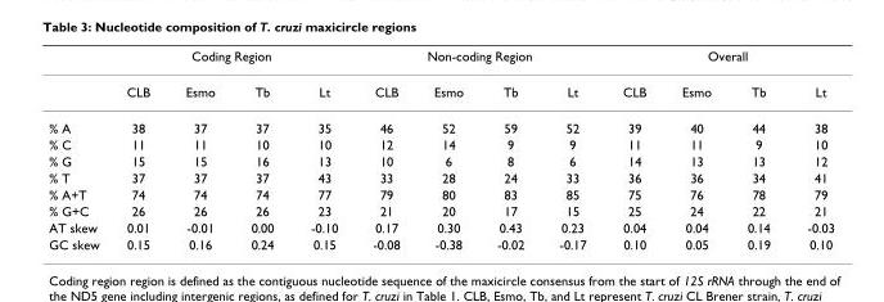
<table><thead><tr><td rowspan="2"></td><td colspan="4">Coding Region</td><td colspan="4">Non-coding Region</td><td colspan="4">Overall</td></tr><tr><td>CLB</td><td>Esmo</td><td>Tb</td><td>Lt</td><td>CLB</td><td>Esmo</td><td>Tb</td><td>Lt</td><td>CLB</td><td>Esmo</td><td>Tb</td><td>Lt</td></tr></thead><tbody><tr><td>% A</td><td>38</td><td>37</td><td>37</td><td>35</td><td>46</td><td>52</td><td>59</td><td>52</td><td>39</td><td>40</td><td>44</td><td>38</td></tr><tr><td>% C</td><td>11</td><td>11</td><td>10</td><td>10</td><td>12</td><td>14</td><td>9</td><td>9</td><td>11</td><td>11</td><td>9</td><td>10</td></tr><tr><td>% G</td><td>15</td><td>15</td><td>16</td><td>13</td><td>10</td><td>6</td><td>8</td><td>6</td><td>14</td><td>13</td><td>13</td><td>12</td></tr><tr><td>% T</td><td>37</td><td>37</td><td>37</td><td>43</td><td>33</td><td>28</td><td>24</td><td>33</td><td>36</td><td>36</td><td>34</td><td>41</td></tr><tr><td>% A+T</td><td>74</td><td>74</td><td>74</td><td>77</td><td>79</td><td>80</td><td>83</td><td>85</td><td>75</td><td>76</td><td>78</td><td>79</td></tr><tr><td>% G+C</td><td>26</td><td>26</td><td>26</td><td>23</td><td>21</td><td>20</td><td>17</td><td>15</td><td>25</td><td>24</td><td>22</td><td>21</td></tr><tr><td>AT skew</td><td>0.01</td><td>-0.01</td><td>0.00</td><td>-0.10</td><td>0.17</td><td>0.30</td><td>0.43</td><td>0.23</td><td>0.04</td><td>0.04</td><td>0.14</td><td>-0.03</td></tr><tr><td>GC skew</td><td>0.15</td><td>0.16</td><td>0.24</td><td>0.15</td><td>-0.08</td><td>-0.38</td><td>-0.02</td><td>-0.17</td><td>0.10</td><td>0.05</td><td>0.19</td><td>0.10</td></tr></tbody></table>